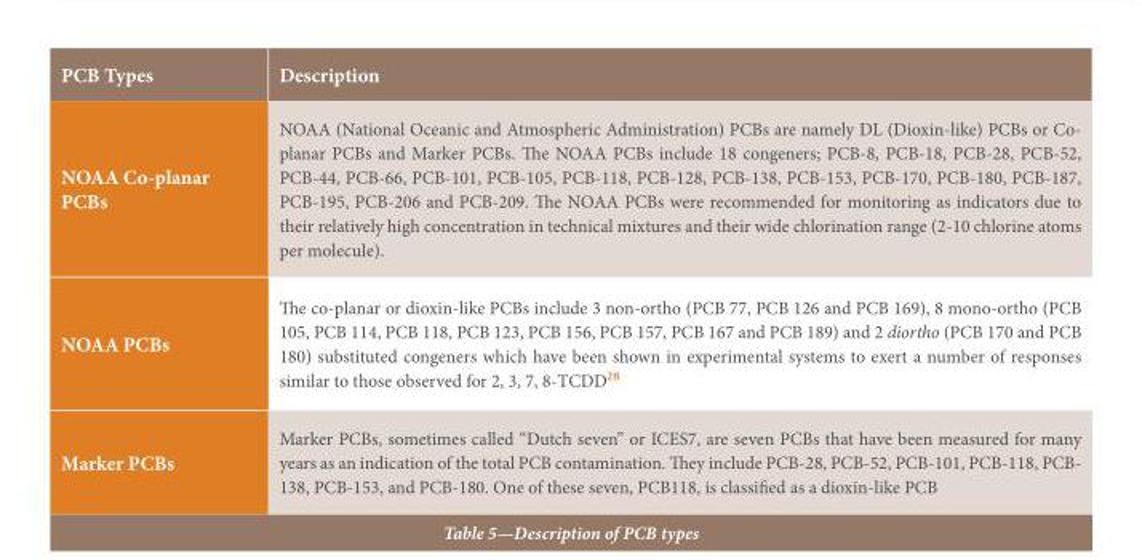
<table><thead><tr><td>PCB Types</td><td>Description</td></tr></thead><tbody><tr><td>NOAA Co-planar PCBs</td><td>NOAA (National Oceanic and Atmospheric Administration) PCBs are namely DL (Dioxin-like) PCBs or Co- planar PCBs and Marker PCBs. The NOAA PCBs include 18 congeners; PCB-8, PCB-18, PCB-28, PCB-52, PCB-44, PCB-66, PCB-101, PCB-105, PCB-118, PCB-128, PCB-138, PCB-153, PCB-170, PCB-180, PCB-187, PCB-195, PCB-206 and PCB-209. The NOAA PCBs were recommended for monitoring as indicators due to their relatively high concentration in technical mixtures and their wide chlorination range (2-10 chlorine atoms per molecule).</td></tr><tr><td>NOAA PCBs</td><td>The co-planar or dioxin-like PCBs include 3 non-ortho (PCB 77, PCB 126 and PCB 169), 8 mono-ortho (PCB 105, PCB 114, PCB 118, PCB 123, PCB 156, PCB 157, PCB 167 and PCB 189) and 2 diortho (PCB 170 and PCB 180) substituted congeners which have been shown in experimental systems to exert a number of responses similar to those observed for 2, 3, 7, 8-TCDD<sup>28</sup></td></tr><tr><td>Marker PCBs</td><td>Marker PCBs, sometimes called “Dutch seven” or ICES7, are seven PCBs that have been measured for many years as an indication of the total PCB contamination. They include PCB-28, PCB-52, PCB-101, PCB-118, PCB- 138, PCB-153, and PCB-180. One of these seven, PCB118, is classified as a dioxin-like PCB</td></tr></tbody></table>